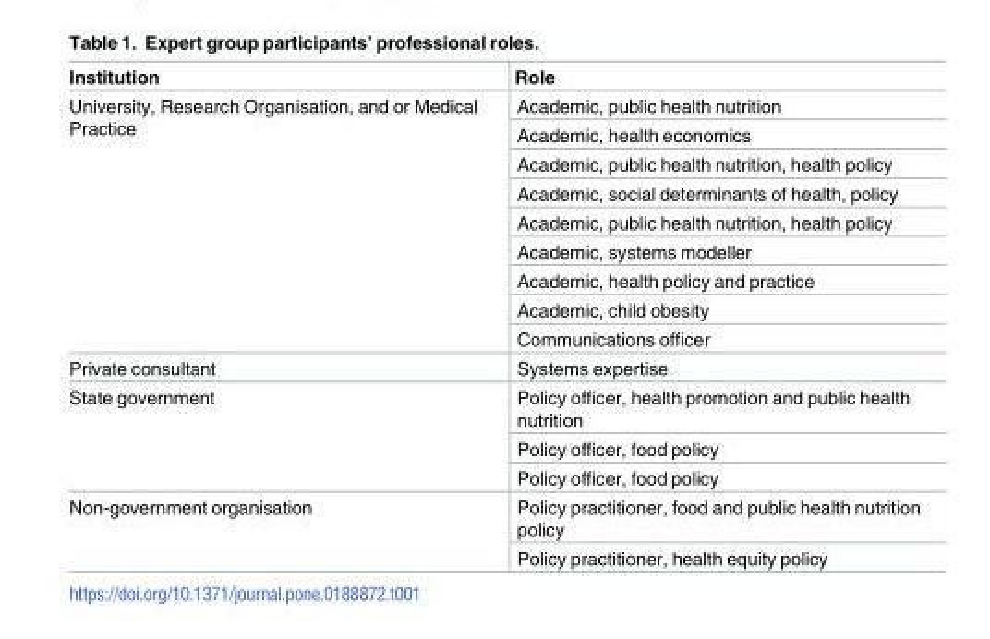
<table><thead><tr><td>Institution</td><td>Role</td></tr></thead><tbody><tr><td rowspan="9">University, Research Organisation, and or Medical Practice</td><td>Academic, public health nutrition</td></tr><tr><td>Academic, health economics</td></tr><tr><td>Academic, public health nutrition, health policy</td></tr><tr><td>Academic, social determinants of health, policy</td></tr><tr><td>Academic, public health nutrition, health policy</td></tr><tr><td>Academic, systems modeller</td></tr><tr><td>Academic, health policy and practice</td></tr><tr><td>Academic, child obesity</td></tr><tr><td>Communications officer</td></tr><tr><td>Private consultant</td><td>Systems expertise</td></tr><tr><td rowspan="3">State government</td><td>Policy officer, health promotion and public health nutrition</td></tr><tr><td>Policy officer, food policy</td></tr><tr><td>Policy officer, food policy</td></tr><tr><td rowspan="2">Non-government organisation</td><td>Policy practitioner, food and public health nutrition policy</td></tr><tr><td>Policy practitioner, health equity policy</td></tr></tbody></table>